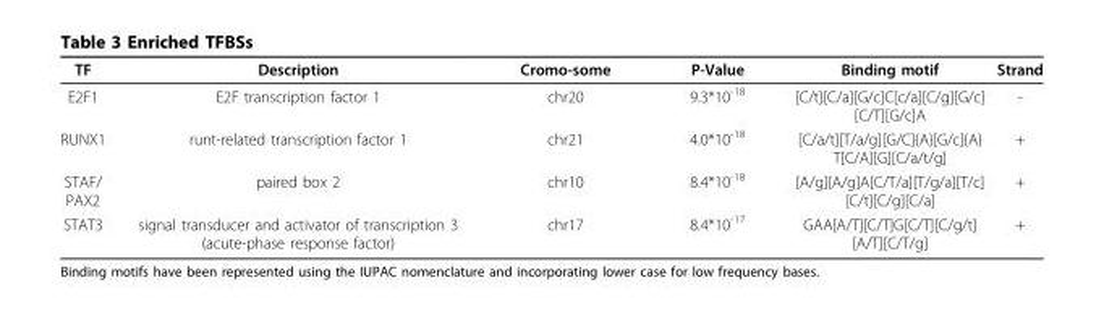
<table><thead><tr><td>TF</td><td>Description</td><td>Cromo-some</td><td>P-Value</td><td>Binding motif</td><td>Strand</td></tr></thead><tbody><tr><td>E2F1</td><td>E2F transcription factor 1</td><td>chr20</td><td>9.3*10<sup>-18</sup></td><td>[C/t][C/a][G/c]C[c/a][C/g][G/c] [C/T][G/c]A</td><td>-</td></tr><tr><td>RUNX1</td><td>runt-related transcription factor 1</td><td>chr21</td><td>4.0*10<sup>-18</sup></td><td>[C/a/t][T/a/g][G/C]{A}[G/c]{A} T[C/A][G][C/a/t/g]</td><td>+</td></tr><tr><td>STAF/ PAX2</td><td>paired box 2</td><td>chr10</td><td>8.4*10<sup>-18</sup></td><td>[A/g][A/g]A[C/T/a][T/g/a][T/c] [C/t][C/g][C/a]</td><td>+</td></tr><tr><td>STAT3</td><td>signal transducer and activator of transcription 3 (acute-phase response factor)</td><td>chr17</td><td>8.4*10<sup>-17</sup></td><td>GAA[A/T][C/T]G[C/T][C/g/t] [A/T][C/T/g]</td><td>+</td></tr></tbody></table>